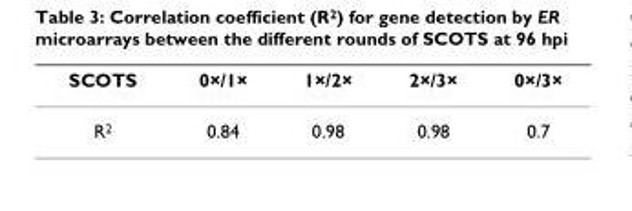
<table><thead><tr><td>SCOTS</td><td>0×/1×</td><td>1×/2×</td><td>2×/3×</td><td>0×/3×</td></tr></thead><tbody><tr><td>R<sup>2</sup></td><td>0.84</td><td>0.98</td><td>0.98</td><td>0.7</td></tr></tbody></table>